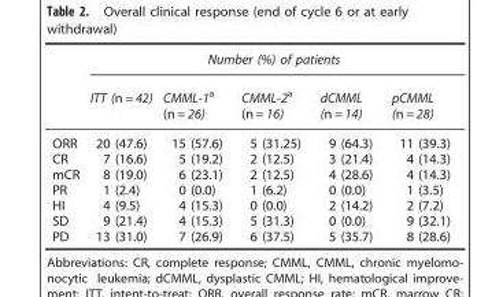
<table><thead><tr><td rowspan="2"></td><td colspan="5">Number (%) of patients</td></tr><tr><td>ITT (n = 42)</td><td>CMML-1<sup>a</sup> (n = 26)</td><td>CMML-2<sup>a</sup> (n = 16)</td><td>dCMML (n = 14)</td><td>pCMML (n = 28)</td></tr></thead><tbody><tr><td>ORR</td><td>20 (47.6)</td><td>15 (57.6)</td><td>5 (31.25)</td><td>9 (64.3)</td><td>11 (39.3)</td></tr><tr><td>CR</td><td>7 (16.6)</td><td>5 (19.2)</td><td>2 (12.5)</td><td>3 (21.4)</td><td>4 (14.3)</td></tr><tr><td>mCR</td><td>8 (19.0)</td><td>6 (23.1)</td><td>2 (12.5)</td><td>4 (28.6)</td><td>4 (14.3)</td></tr><tr><td>PR</td><td>1 (2.4)</td><td>0 (0.0)</td><td>1 (6.2)</td><td>0 (0.0)</td><td>1 (3.5)</td></tr><tr><td>HI</td><td>4 (9.5)</td><td>4 (15.3)</td><td>0 (0.0)</td><td>2 (14.2)</td><td>2 (7.2)</td></tr><tr><td>SD</td><td>9 (21.4)</td><td>4 (15.3)</td><td>5 (31.3)</td><td>0 (0.0)</td><td>9 (32.1)</td></tr><tr><td>PD</td><td>13 (31.0)</td><td>7 (26.9)</td><td>6 (37.5)</td><td>5 (35.7)</td><td>8 (28.6)</td></tr></tbody></table>